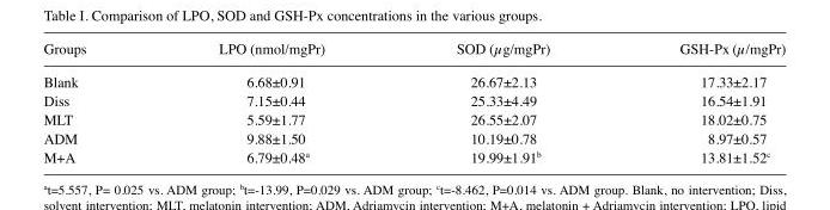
<table><thead><tr><td>Groups</td><td>LPO (nmol/mgPr)</td><td>SOD (µg/mgPr)</td><td>GSH-Px (µ/mgPr)</td></tr></thead><tbody><tr><td>Blank</td><td>6.68±0.91</td><td>26.67±2.13</td><td>17.33±2.17</td></tr><tr><td>Diss</td><td>7.15±0.44</td><td>25.33±4.49</td><td>16.54±1.91</td></tr><tr><td>MLT</td><td>5.59±1.77</td><td>26.55±2.07</td><td>18.02±0.75</td></tr><tr><td>ADM</td><td>9.88±1.50</td><td>10.19±0.78</td><td>8.97±0.57</td></tr><tr><td>M+A</td><td>6.79±0.48<sup>a</sup></td><td>19.99±1.91<sup>b</sup></td><td>13.81±1.52<sup>c</sup></td></tr></tbody></table>